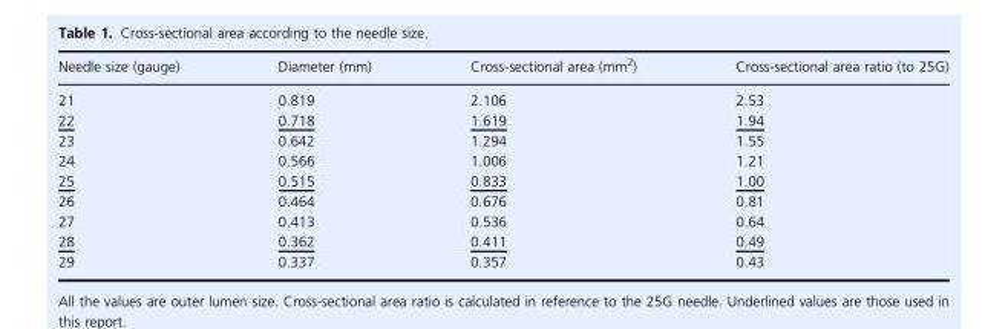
<table><thead><tr><td>Needle size (gauge)</td><td>Diameter (mm)</td><td>Cross-sectional area (mm<sup>2</sup>)</td><td>Cross-sectional area ratio (to 25G)</td></tr></thead><tbody><tr><td>21</td><td>0.819</td><td>2.106</td><td>2.53</td></tr><tr><td>22</td><td>0.718</td><td>1.619</td><td>1.94</td></tr><tr><td>23</td><td>0.642</td><td>1.294</td><td>1.55</td></tr><tr><td>24</td><td>0.566</td><td>1.006</td><td>1.21</td></tr><tr><td>25</td><td>0.515</td><td>0.833</td><td>1.00</td></tr><tr><td>26</td><td>0.464</td><td>0.676</td><td>0.81</td></tr><tr><td>27</td><td>0.413</td><td>0.536</td><td>0.64</td></tr><tr><td>28</td><td>0.362</td><td>0.411</td><td>0.49</td></tr><tr><td>29</td><td>0.337</td><td>0.357</td><td>0.43</td></tr></tbody></table>